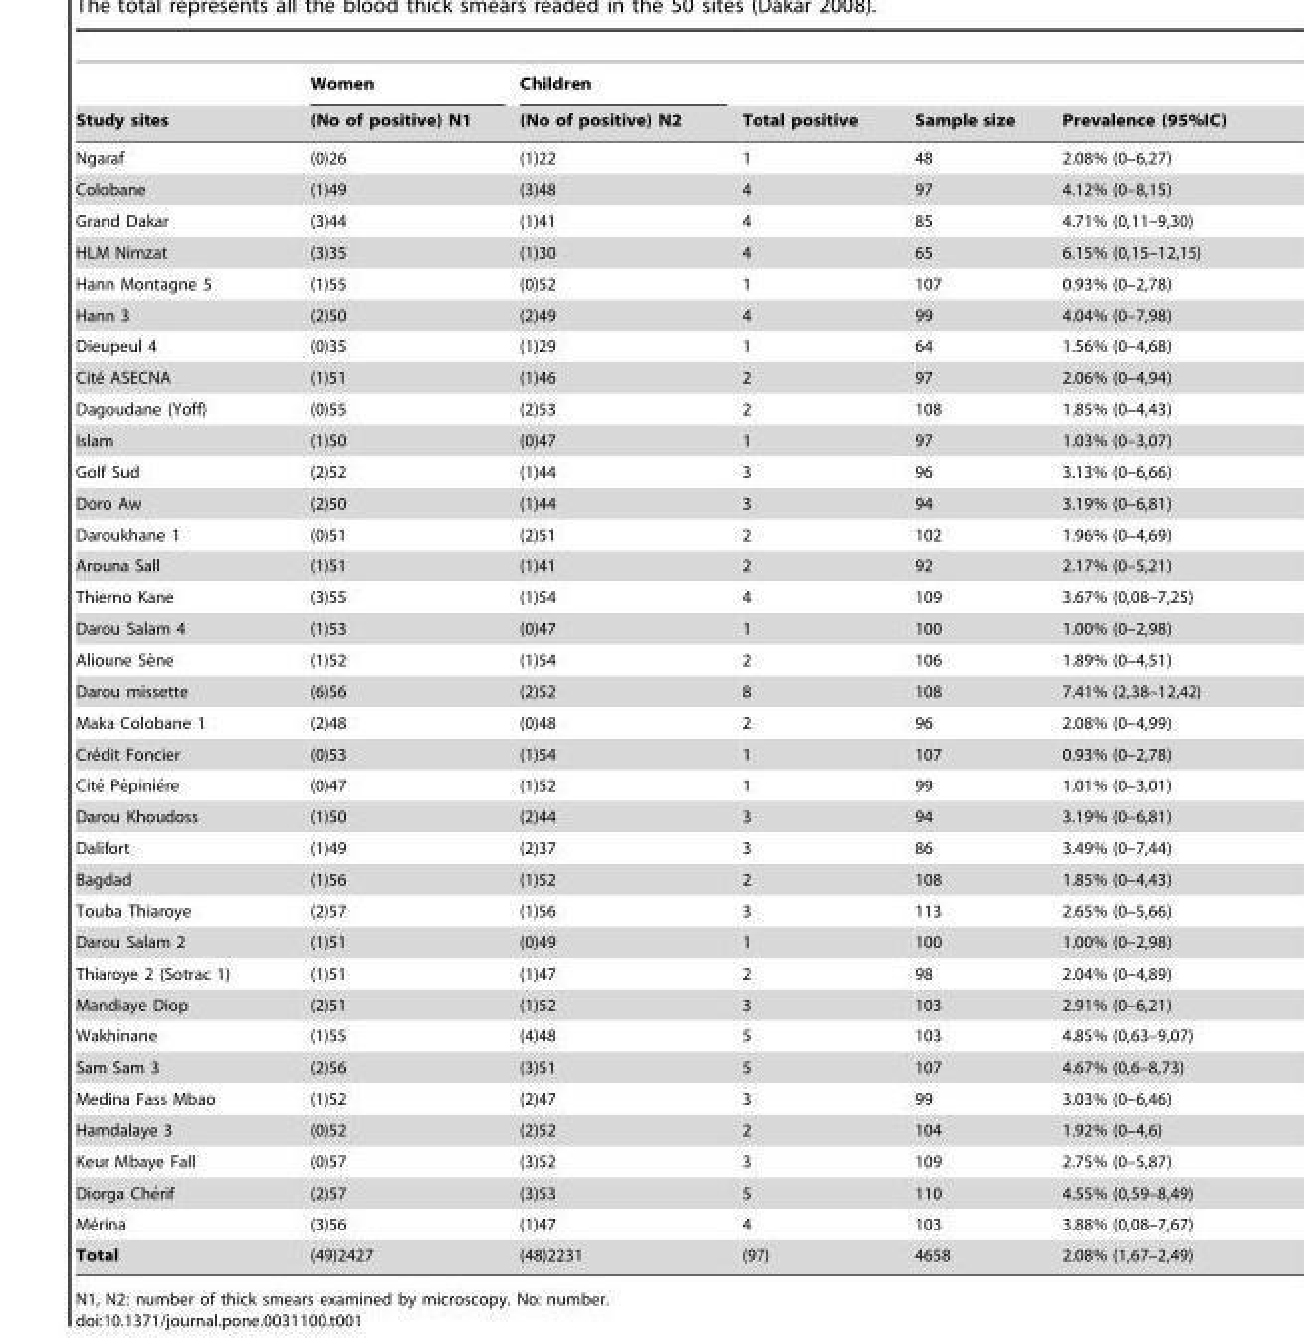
<table><thead><tr><td rowspan="2">Study sites</td><td rowspan="2">Women (No of positive) N1</td><td rowspan="2">Children (No of positive) N2</td><td rowspan="2">Total positive</td><td rowspan="2">Sample size</td><td rowspan="2">Prevalence (95%IC)</td></tr><tr></tr></thead><tbody><tr><td>Ngaraf</td><td>(0)26</td><td>(1)22</td><td>1</td><td>48</td><td>2.08% (0–6,27)</td></tr><tr><td>Colobane</td><td>(1)49</td><td>(3)48</td><td>4</td><td>97</td><td>4.12% (0–8,15)</td></tr><tr><td>Grand Dakar</td><td>(3)44</td><td>(1)41</td><td>4</td><td>85</td><td>4.71% (0,11–9,30)</td></tr><tr><td>HLM Nimzat</td><td>(3)35</td><td>(1)30</td><td>4</td><td>65</td><td>6.15% (0,15–12,15)</td></tr><tr><td>Hann Montagne 5</td><td>(1)55</td><td>(0)52</td><td>1</td><td>107</td><td>0.93% (0–2,78)</td></tr><tr><td>Hann 3</td><td>(2)50</td><td>(2)49</td><td>4</td><td>99</td><td>4.04% (0–7,98)</td></tr><tr><td>Dieupeul 4</td><td>(0)35</td><td>(1)29</td><td>1</td><td>64</td><td>1.56% (0–4,68)</td></tr><tr><td>Cite´ ASECNA</td><td>(1)51</td><td>(1)46</td><td>2</td><td>97</td><td>2.06% (0–4,94)</td></tr><tr><td>Dagoudane (Yoff)</td><td>(0)55</td><td>(2)53</td><td>2</td><td>108</td><td>1.85% (0–4,43)</td></tr><tr><td>Islam</td><td>(1)50</td><td>(0)47</td><td>1</td><td>97</td><td>1.03% (0–3,07)</td></tr><tr><td>Golf Sud</td><td>(2)52</td><td>(1)44</td><td>3</td><td>96</td><td>3.13% (0–6,66)</td></tr><tr><td>Doro Aw</td><td>(2)50</td><td>(1)44</td><td>3</td><td>94</td><td>3.19% (0–6,81)</td></tr><tr><td>Daroukhane 1</td><td>(0)51</td><td>(2)51</td><td>2</td><td>102</td><td>1.96% (0–4,69)</td></tr><tr><td>Arouna Sall</td><td>(1)51</td><td>(1)41</td><td>2</td><td>92</td><td>2.17% (0–5,21)</td></tr><tr><td>Thierno Kane</td><td>(3)55</td><td>(1)54</td><td>4</td><td>109</td><td>3.67% (0,08–7,25)</td></tr><tr><td>Darou Salam 4</td><td>(1)53</td><td>(0)47</td><td>1</td><td>100</td><td>1.00% (0–2,98)</td></tr><tr><td>Alioune Se`ne</td><td>(1)52</td><td>(1)54</td><td>2</td><td>106</td><td>1.89% (0–4,51)</td></tr><tr><td>Darou missette</td><td>(6)56</td><td>(2)52</td><td>8</td><td>108</td><td>7.41% (2,38–12,42)</td></tr><tr><td>Maka Colobane 1</td><td>(2)48</td><td>(0)48</td><td>2</td><td>96</td><td>2.08% (0–4,99)</td></tr><tr><td>Cre´dit Foncier</td><td>(0)53</td><td>(1)54</td><td>1</td><td>107</td><td>0.93% (0–2,78)</td></tr><tr><td>Cite´ Pe´pinie´re</td><td>(0)47</td><td>(1)52</td><td>1</td><td>99</td><td>1.01% (0–3,01)</td></tr><tr><td>Darou Khoudoss</td><td>(1)50</td><td>(2)44</td><td>3</td><td>94</td><td>3.19% (0–6,81)</td></tr><tr><td>Dalifort</td><td>(1)49</td><td>(2)37</td><td>3</td><td>86</td><td>3.49% (0–7,44)</td></tr><tr><td>Bagdad</td><td>(1)56</td><td>(1)52</td><td>2</td><td>108</td><td>1.85% (0–4,43)</td></tr><tr><td>Touba Thiaroye</td><td>(2)57</td><td>(1)56</td><td>3</td><td>113</td><td>2.65% (0–5,66)</td></tr><tr><td>Darou Salam 2</td><td>(1)51</td><td>(0)49</td><td>1</td><td>100</td><td>1.00% (0–2,98)</td></tr><tr><td>Thiaroye 2 (Sotrac 1)</td><td>(1)51</td><td>(1)47</td><td>2</td><td>98</td><td>2.04% (0–4,89)</td></tr><tr><td>Mandiaye Diop</td><td>(2)51</td><td>(1)52</td><td>3</td><td>103</td><td>2.91% (0–6,21)</td></tr><tr><td>Wakhinane</td><td>(1)55</td><td>(4)48</td><td>5</td><td>103</td><td>4.85% (0,63–9,07)</td></tr><tr><td>Sam Sam 3</td><td>(2)56</td><td>(3)51</td><td>5</td><td>107</td><td>4.67% (0,6–8,73)</td></tr><tr><td>Medina Fass Mbao</td><td>(1)52</td><td>(2)47</td><td>3</td><td>99</td><td>3.03% (0–6,46)</td></tr><tr><td>Hamdalaye 3</td><td>(0)52</td><td>(2)52</td><td>2</td><td>104</td><td>1.92% (0–4,6)</td></tr><tr><td>Keur Mbaye Fall</td><td>(0)57</td><td>(3)52</td><td>3</td><td>109</td><td>2.75% (0–5,87)</td></tr><tr><td>Diorga Che´rif</td><td>(2)57</td><td>(3)53</td><td>5</td><td>110</td><td>4.55% (0,59–8,49)</td></tr><tr><td>Me´rina</td><td>(3)56</td><td>(1)47</td><td>4</td><td>103</td><td>3.88% (0,08–7,67)</td></tr><tr><td>Total</td><td>(49)2427</td><td>(48)2231</td><td>(97)</td><td>4658</td><td>2.08% (1,67–2,49)</td></tr></tbody></table>